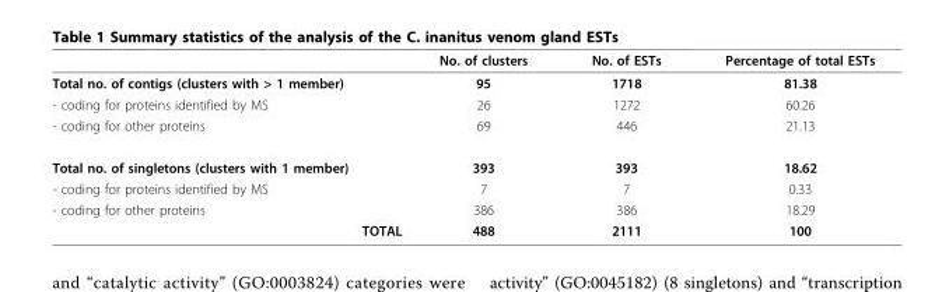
<table><thead><tr><td></td><td>No. of clusters</td><td>No. of ESTs</td><td>Percentage of total ESTs</td></tr></thead><tbody><tr><td>Total no. of contigs (clusters with &gt; 1 member)</td><td>95</td><td>1718</td><td>81.38</td></tr><tr><td>- coding for proteins identified by MS</td><td>26</td><td>1272</td><td>60.26</td></tr><tr><td>- coding for other proteins</td><td>69</td><td>446</td><td>21.13</td></tr><tr><td>Total no. of singletons (clusters with 1 member)</td><td>393</td><td>393</td><td>18.62</td></tr><tr><td>- coding for proteins identified by MS</td><td>7</td><td>7</td><td>0.33</td></tr><tr><td>- coding for other proteins</td><td>386</td><td>386</td><td>18.29</td></tr><tr><td>TOTAL</td><td>488</td><td>2111</td><td>100</td></tr></tbody></table>